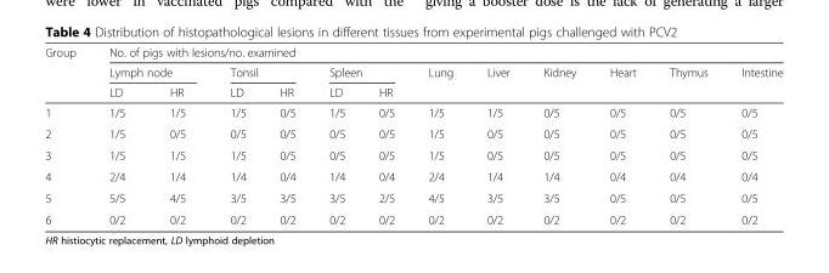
<table><thead><tr><td rowspan="3">Group</td><td colspan="12">No. of pigs with lesions/no. examined</td></tr><tr><td colspan="2">Lymph node</td><td colspan="2">Tonsil</td><td colspan="2">Spleen</td><td rowspan="2">Lung</td><td rowspan="2">Liver</td><td rowspan="2">Kidney</td><td rowspan="2">Heart</td><td rowspan="2">Thymus</td><td rowspan="2">Intestine</td></tr><tr><td>LD</td><td>HR</td><td>LD</td><td>HR</td><td>LD</td><td>HR</td></tr></thead><tbody><tr><td>1</td><td>1/5</td><td>1/5</td><td>1/5</td><td>0/5</td><td>1/5</td><td>0/5</td><td>1/5</td><td>1/5</td><td>0/5</td><td>0/5</td><td>0/5</td><td>0/5</td></tr><tr><td>2</td><td>1/5</td><td>0/5</td><td>0/5</td><td>0/5</td><td>0/5</td><td>0/5</td><td>1/5</td><td>0/5</td><td>0/5</td><td>0/5</td><td>0/5</td><td>0/5</td></tr><tr><td>3</td><td>1/5</td><td>1/5</td><td>1/5</td><td>0/5</td><td>0/5</td><td>0/5</td><td>1/5</td><td>0/5</td><td>0/5</td><td>0/5</td><td>0/5</td><td>0/5</td></tr><tr><td>4</td><td>2/4</td><td>1/4</td><td>1/4</td><td>0/4</td><td>1/4</td><td>0/4</td><td>2/4</td><td>1/4</td><td>1/4</td><td>0/4</td><td>0/4</td><td>0/4</td></tr><tr><td>5</td><td>5/5</td><td>4/5</td><td>3/5</td><td>3/5</td><td>3/5</td><td>2/5</td><td>4/5</td><td>3/5</td><td>3/5</td><td>0/5</td><td>0/5</td><td>0/5</td></tr><tr><td>6</td><td>0/2</td><td>0/2</td><td>0/2</td><td>0/2</td><td>0/2</td><td>0/2</td><td>0/2</td><td>0/2</td><td>0/2</td><td>0/2</td><td>0/2</td><td>0/2</td></tr></tbody></table>